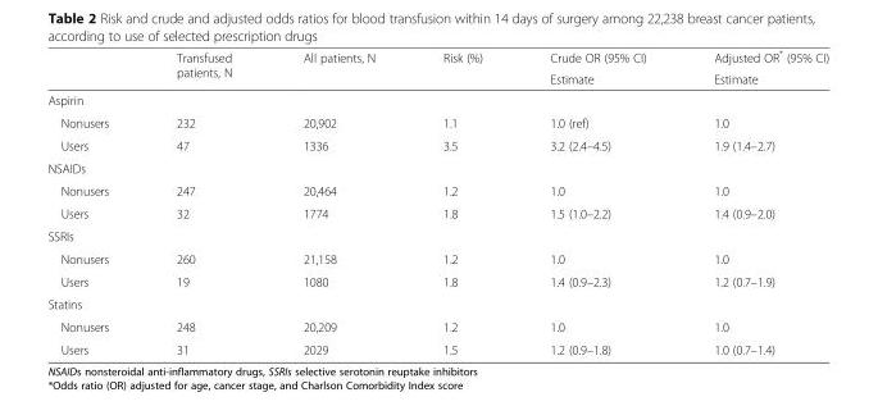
<table><thead><tr><td rowspan="2"></td><td rowspan="2">Transfused patients, N</td><td rowspan="2">All patients, N</td><td rowspan="2">Risk (%)</td><td rowspan="2">Crude OR (95% CI) Estimate</td><td rowspan="2">Adjusted OR* (95% CI) Estimate</td></tr><tr></tr></thead><tbody><tr><td colspan="6">Aspirin</td></tr><tr><td>Nonusers</td><td>232</td><td>20,902</td><td>1.1</td><td>1.0 (ref)</td><td>1.0</td></tr><tr><td>Users</td><td>47</td><td>1336</td><td>3.5</td><td>3.2 (2.4–4.5)</td><td>1.9 (1.4–2.7)</td></tr><tr><td colspan="6">NSAIDs</td></tr><tr><td>Nonusers</td><td>247</td><td>20,464</td><td>1.2</td><td>1.0</td><td>1.0</td></tr><tr><td>Users</td><td>32</td><td>1774</td><td>1.8</td><td>1.5 (1.0–2.2)</td><td>1.4 (0.9–2.0)</td></tr><tr><td colspan="6">SSRIs</td></tr><tr><td>Nonusers</td><td>260</td><td>21,158</td><td>1.2</td><td>1.0</td><td>1.0</td></tr><tr><td>Users</td><td>19</td><td>1080</td><td>1.8</td><td>1.4 (0.9–2.3)</td><td>1.2 (0.7–1.9)</td></tr><tr><td colspan="6">Statins</td></tr><tr><td>Nonusers</td><td>248</td><td>20,209</td><td>1.2</td><td>1.0</td><td>1.0</td></tr><tr><td>Users</td><td>31</td><td>2029</td><td>1.5</td><td>1.2 (0.9–1.8)</td><td>1.0 (0.7–1.4)</td></tr></tbody></table>